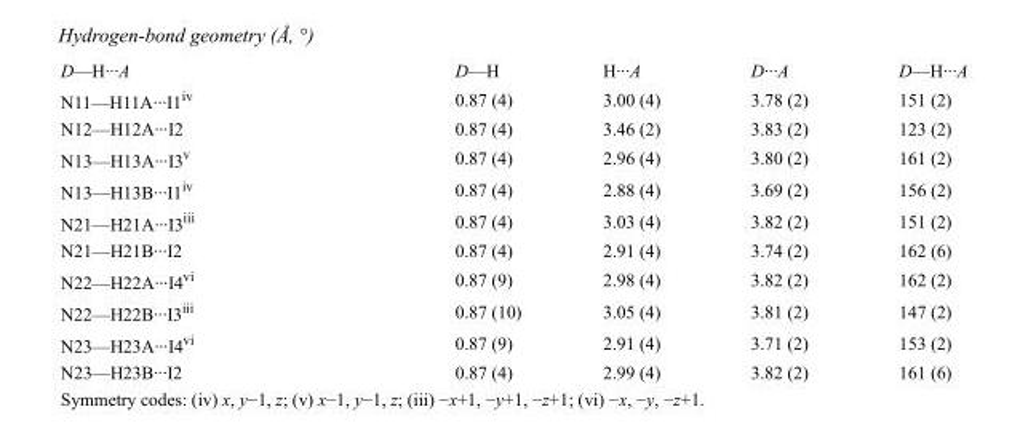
<table><tbody><tr><td>D—H···A</td><td>D—H</td><td>H···A</td><td>D···A</td><td>D—H···A</td></tr><tr><td>N11—H11A···I1<sup>iv</sup></td><td>0.87 (4)</td><td>3.00 (4)</td><td>3.78 (2)</td><td>151 (2)</td></tr><tr><td>N12—H12A···I2</td><td>0.87 (4)</td><td>3.46 (2)</td><td>3.83 (2)</td><td>123 (2)</td></tr><tr><td>N13—H13A···I3<sup>v</sup></td><td>0.87 (4)</td><td>2.96 (4)</td><td>3.80 (2)</td><td>161 (2)</td></tr><tr><td>N13—H13B···I1<sup>iv</sup></td><td>0.87 (4)</td><td>2.88 (4)</td><td>3.69 (2)</td><td>156 (2)</td></tr><tr><td>N21—H21A···I3<sup>iii</sup></td><td>0.87 (4)</td><td>3.03 (4)</td><td>3.82 (2)</td><td>151 (2)</td></tr><tr><td>N21—H21B···I2</td><td>0.87 (4)</td><td>2.91 (4)</td><td>3.74 (2)</td><td>162 (6)</td></tr><tr><td>N22—H22A···I4<sup>vi</sup></td><td>0.87 (9)</td><td>2.98 (4)</td><td>3.82 (2)</td><td>162 (2)</td></tr><tr><td>N22—H22B···I3<sup>iii</sup></td><td>0.87 (10)</td><td>3.05 (4)</td><td>3.81 (2)</td><td>147 (2)</td></tr><tr><td>N23—H23A···I4<sup>vi</sup></td><td>0.87 (9)</td><td>2.91 (4)</td><td>3.71 (2)</td><td>153 (2)</td></tr><tr><td>N23—H23B···I2</td><td>0.87 (4)</td><td>2.99 (4)</td><td>3.82 (2)</td><td>161 (6)</td></tr></tbody></table>